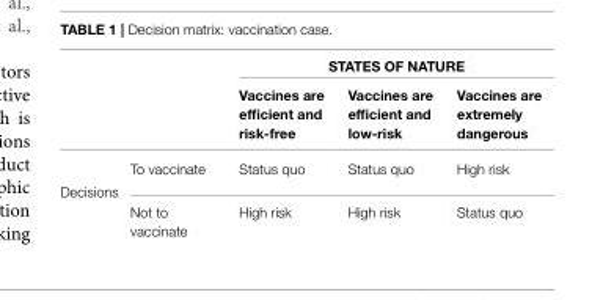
<table><thead><tr><td rowspan="2"></td><td rowspan="2"></td><td colspan="3">STATES OF NATURE</td></tr><tr><td>Vaccines are efficient and risk-free</td><td>Vaccines are efficient and low-risk</td><td>Vaccines are extremely dangerous</td></tr></thead><tbody><tr><td rowspan="2">Decisions</td><td>To vaccinate</td><td>Status quo</td><td>Status quo</td><td>High risk</td></tr><tr><td>Not to vaccinate</td><td>High risk</td><td>High risk</td><td>Status quo</td></tr></tbody></table>